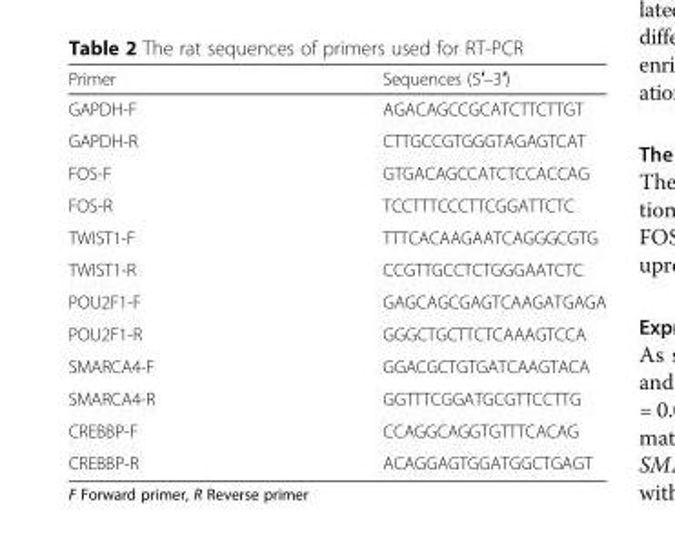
<table><thead><tr><td>Primer</td><td>Sequences (5′–3′)</td></tr></thead><tbody><tr><td>GAPDH-F</td><td>AGACAGCCGCATCTTCTTGT</td></tr><tr><td>GAPDH-R</td><td>CTTGCCGTGGGTAGAGTCAT</td></tr><tr><td>FOS-F</td><td>GTGACAGCCATCTCCACCAG</td></tr><tr><td>FOS-R</td><td>TCCTTTCCCTTCGGATTCTC</td></tr><tr><td>TWIST1-F</td><td>TTTCACAAGAATCAGGGCGTG</td></tr><tr><td>TWIST1-R</td><td>CCGTTGCCTCTGGGAATCTC</td></tr><tr><td>POU2F1-F</td><td>GAGCAGCGAGTCAAGATGAGA</td></tr><tr><td>POU2F1-R</td><td>GGGCTGCTTCTCAAAGTCCA</td></tr><tr><td>SMARCA4-F</td><td>GGACGCTGTGATCAAGTACA</td></tr><tr><td>SMARCA4-R</td><td>GGTTTCGGATGCGTTCCTTG</td></tr><tr><td>CREBBP-F</td><td>CCAGGCAGGTGTTTCACAG</td></tr><tr><td>CREBBP-R</td><td>ACAGGAGTGGATGGCTGAGT</td></tr></tbody></table>